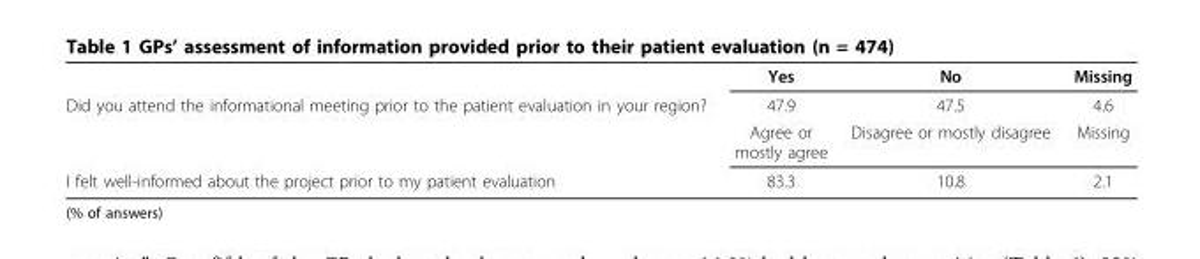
<table><thead><tr><td></td><td>Yes</td><td>No</td><td>Missing</td></tr></thead><tbody><tr><td rowspan="2">Did you attend the informational meeting prior to the patient evaluation in your region?</td><td>47.9</td><td>47.5</td><td>4.6</td></tr><tr><td>Agree or mostly agree</td><td>Disagree or mostly disagree</td><td>Missing</td></tr><tr><td>I felt well-informed about the project prior to my patient evaluation</td><td>83.3</td><td>10.8</td><td>2.1</td></tr></tbody></table>